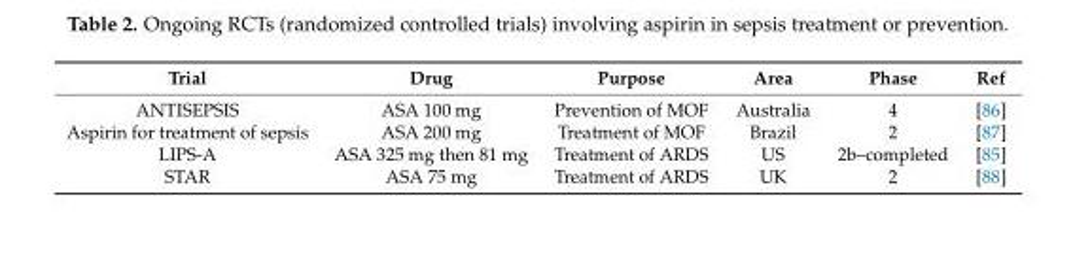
<table><thead><tr><td>Trial</td><td>Drug</td><td>Purpose</td><td>Area</td><td>Phase</td><td>Ref</td></tr></thead><tbody><tr><td>ANTISEPSIS</td><td>ASA 100 mg</td><td>Prevention of MOF</td><td>Australia</td><td>4</td><td>[86]</td></tr><tr><td>Aspirin for treatment of sepsis</td><td>ASA 200 mg</td><td>Treatment of MOF</td><td>Brazil</td><td>2</td><td>[87]</td></tr><tr><td>LIPS-A</td><td>ASA 325 mg then 81 mg</td><td>Treatment of ARDS</td><td>US</td><td>2b–completed</td><td>[85]</td></tr><tr><td>STAR</td><td>ASA 75 mg</td><td>Treatment of ARDS</td><td>UK</td><td>2</td><td>[88]</td></tr></tbody></table>